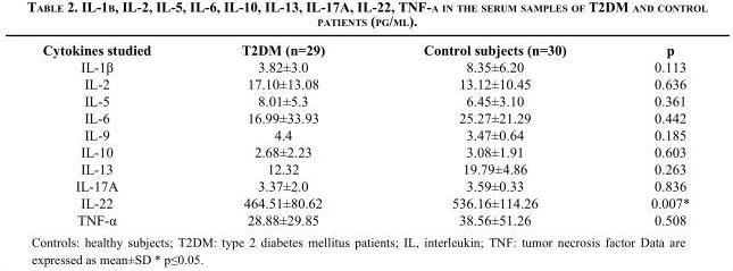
<table><thead><tr><td>Cytokines studied</td><td>T2DM (n=29)</td><td>Control subjects (n=30)</td><td>p</td></tr></thead><tbody><tr><td>IL-1β</td><td>3.82±3.0</td><td>8.35±6.20</td><td>0.113</td></tr><tr><td>IL-2</td><td>17.10±13.08</td><td>13.12±10.45</td><td>0.636</td></tr><tr><td>IL-5</td><td>8.01±5.3</td><td>6.45±3.10</td><td>0.361</td></tr><tr><td>IL-6</td><td>16.99±33.93</td><td>25.27±21.29</td><td>0.442</td></tr><tr><td>IL-9</td><td>4.4</td><td>3.47±0.64</td><td>0.185</td></tr><tr><td>IL-10</td><td>2.68±2.23</td><td>3.08±1.91</td><td>0.603</td></tr><tr><td>IL-13</td><td>12.32</td><td>19.79±4.86</td><td>0.263</td></tr><tr><td>IL-17A</td><td>3.37±2.0</td><td>3.59±0.33</td><td>0.836</td></tr><tr><td>IL-22</td><td>464.51±80.62</td><td>536.16±114.26</td><td>0.007*</td></tr><tr><td>TNF-α</td><td>28.88±29.85</td><td>38.56±51.26</td><td>0.508</td></tr></tbody></table>